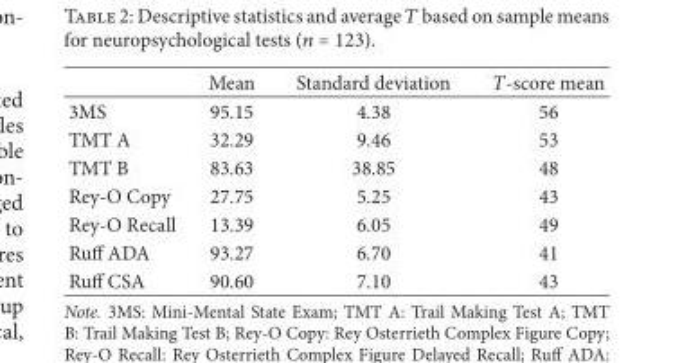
<table><thead><tr><td></td><td>Mean</td><td>Standard deviation</td><td>T-score mean</td></tr></thead><tbody><tr><td>3MS</td><td>95.15</td><td>4.38</td><td>56</td></tr><tr><td>TMT A</td><td>32.29</td><td>9.46</td><td>53</td></tr><tr><td>TMT B</td><td>83.63</td><td>38.85</td><td>48</td></tr><tr><td>Rey-O Copy</td><td>27.75</td><td>5.25</td><td>43</td></tr><tr><td>Rey-O Recall</td><td>13.39</td><td>6.05</td><td>49</td></tr><tr><td>Ruff ADA</td><td>93.27</td><td>6.70</td><td>41</td></tr><tr><td>Ruff CSA</td><td>90.60</td><td>7.10</td><td>43</td></tr></tbody></table>